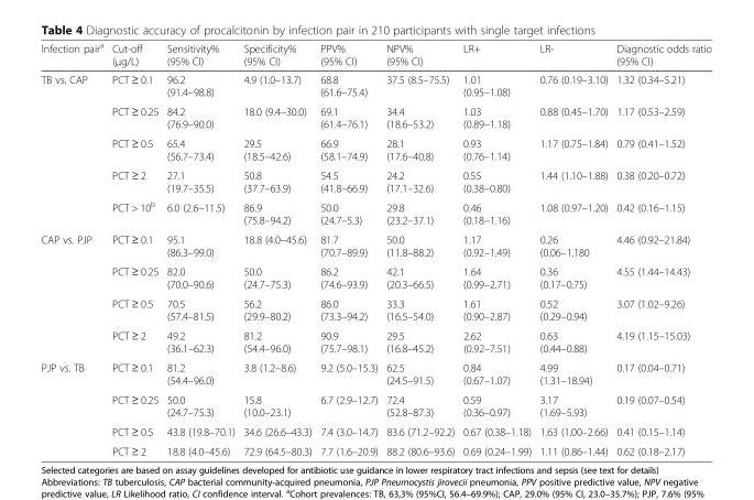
<table><thead><tr><td>Infection pair<sup>a</sup></td><td>Cut-off (μg/L)</td><td>Sensitivity% (95% CI)</td><td>Specificity% (95% CI)</td><td>PPV% (95% CI)</td><td>NPV% (95% CI)</td><td>LR+</td><td>LR-</td><td>Diagnostic odds ratio (95% CI)</td></tr></thead><tbody><tr><td rowspan="5">TB vs. CAP</td><td>PCT ≥ 0.1</td><td>96.2 (91.4–98.8)</td><td>4.9 (1.0–13.7)</td><td>68.8 (61.6–75.4)</td><td>37.5 (8.5–75.5)</td><td>1.01 (0.95–1.08)</td><td>0.76 (0.19–3.10)</td><td>1.32 (0.34–5.21)</td></tr><tr><td>PCT ≥ 0.25</td><td>84.2 (76.9–90.0)</td><td>18.0 (9.4–30.0)</td><td>69.1 (61.4–76.1)</td><td>34.4 (18.6–53.2)</td><td>1.03 (0.89–1.18)</td><td>0.88 (0.45–1.70)</td><td>1.17 (0.53–2.59)</td></tr><tr><td>PCT ≥ 0.5</td><td>65.4 (56.7–73.4)</td><td>29.5 (18.5–42.6)</td><td>66.9 (58.1–74.9)</td><td>28.1 (17.6–40.8)</td><td>0.93 (0.76–1.14)</td><td>1.17 (0.75–1.84)</td><td>0.79 (0.41–1.52)</td></tr><tr><td>PCT ≥ 2</td><td>27.1 (19.7–35.5)</td><td>50.8 (37.7–63.9)</td><td>54.5 (41.8–66.9)</td><td>24.2 (17.1–32.6)</td><td>0.55 (0.38–0.80)</td><td>1.44 (1.10–1.88)</td><td>0.38 (0.20–0.72)</td></tr><tr><td>PCT &gt; 10<sup>b</sup></td><td>6.0 (2.6–11.5)</td><td>86.9 (75.8–94.2)</td><td>50.0 (24.7–5.3)</td><td>29.8 (23.2–37.1)</td><td>0.46 (0.18–1.16)</td><td>1.08 (0.97–1.20)</td><td>0.42 (0.16–1.15)</td></tr><tr><td rowspan="4">CAP vs. PJP</td><td>PCT ≥ 0.1</td><td>95.1 (86.3–99.0)</td><td>18.8 (4.0–45.6)</td><td>81.7 (70.7–89.9)</td><td>50.0 (11.8–88.2)</td><td>1.17 (0.92–1.49)</td><td>0.26 (0.06–1.180</td><td>4.46 (0.92–21.84)</td></tr><tr><td>PCT ≥ 0.25</td><td>82.0 (70.0–90.6)</td><td>50.0 (24.7–75.3)</td><td>86.2 (74.6–93.9)</td><td>42.1 (20.3–66.5)</td><td>1.64 (0.99–2.71)</td><td>0.36 (0.17–0.75)</td><td>4.55 (1.44–14.43)</td></tr><tr><td>PCT ≥ 0.5</td><td>70.5 (57.4–81.5)</td><td>56.2 (29.9–80.2)</td><td>86.0 (73.3–94.2)</td><td>33.3 (16.5–54.0)</td><td>1.61 (0.90–2.87)</td><td>0.52 (0.29–0.94)</td><td>3.07 (1.02–9.26)</td></tr><tr><td>PCT ≥ 2</td><td>49.2 (36.1–62.3)</td><td>81.2 (54.4–96.0)</td><td>90.9 (75.7–98.1)</td><td>29.5 (16.8–45.2)</td><td>2.62 (0.92–7.51)</td><td>0.63 (0.44–0.88)</td><td>4.19 (1.15–15.03)</td></tr><tr><td rowspan="4">PJP vs. TB</td><td>PCT ≥ 0.1</td><td>81.2 (54.4–96.0)</td><td>3.8 (1.2–8.6)</td><td>9.2 (5.0–15.3)</td><td>62.5 (24.5–91.5)</td><td>0.84 (0.67–1.07)</td><td>4.99 (1.31–18.94)</td><td>0.17 (0.04–0.71)</td></tr><tr><td>PCT ≥ 0.25</td><td>50.0 (24.7–75.3)</td><td>15.8 (10.0–23.1)</td><td>6.7 (2.9–12.7)</td><td>72.4 (52.8–87.3)</td><td>0.59 (0.36–0.97)</td><td>3.17 (1.69–5.93)</td><td>0.19 (0.07–0.54)</td></tr><tr><td>PCT ≥ 0.5</td><td>43.8 (19.8–70.1)</td><td>34.6 (26.6–43.3)</td><td>7.4 (3.0–14.7)</td><td>83.6 (71.2–92.2)</td><td>0.67 (0.38–1.18)</td><td>1.63 (1.00–2.66)</td><td>0.41 (0.15–1.14)</td></tr><tr><td>PCT ≥ 2</td><td>18.8 (4.0–45.6)</td><td>72.9 (64.5–80.3)</td><td>7.7 (1.6–20.9)</td><td>88.2 (80.6–93.6)</td><td>0.69 (0.24–1.99)</td><td>1.11 (0.86–1.44)</td><td>0.62 (0.18–2.17)</td></tr></tbody></table>